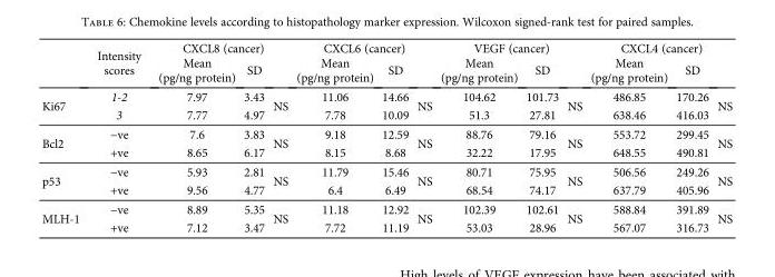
<table><thead><tr><td rowspan="2"></td><td rowspan="2">Intensity scores</td><td colspan="3">CXCL8 (cancer)</td><td colspan="3">CXCL6 (cancer)</td><td colspan="3">VEGF (cancer)</td><td colspan="3">CXCL4 (cancer)</td></tr><tr><td>Mean (pg/ng protein)</td><td>SD</td><td></td><td>Mean (pg/ng protein)</td><td>SD</td><td></td><td>Mean (pg/ng protein)</td><td>SD</td><td></td><td>Mean (pg/ng protein)</td><td>SD</td><td></td></tr></thead><tbody><tr><td rowspan="2">Ki67</td><td>1-2</td><td>7.97</td><td>3.43</td><td rowspan="2">NS</td><td>11.06</td><td>14.66</td><td rowspan="2">NS</td><td>104.62</td><td>101.73</td><td rowspan="2">NS</td><td>486.85</td><td>170.26</td><td rowspan="2">NS</td></tr><tr><td>3</td><td>7.77</td><td>4.97</td><td>7.78</td><td>10.09</td><td>51.3</td><td>27.81</td><td>638.46</td><td>416.03</td></tr><tr><td rowspan="2">Bcl2</td><td>−ve</td><td>7.6</td><td>3.83</td><td rowspan="2">NS</td><td>9.18</td><td>12.59</td><td rowspan="2">NS</td><td>88.76</td><td>79.16</td><td rowspan="2">NS</td><td>553.72</td><td>299.45</td><td rowspan="2">NS</td></tr><tr><td>+ve</td><td>8.65</td><td>6.17</td><td>8.15</td><td>8.68</td><td>32.22</td><td>17.95</td><td>648.55</td><td>490.81</td></tr><tr><td rowspan="2">p53</td><td>−ve</td><td>5.93</td><td>2.81</td><td rowspan="2">NS</td><td>11.79</td><td>15.46</td><td rowspan="2">NS</td><td>80.71</td><td>75.95</td><td rowspan="2">NS</td><td>506.56</td><td>249.26</td><td rowspan="2">NS</td></tr><tr><td>+ve</td><td>9.56</td><td>4.77</td><td>6.4</td><td>6.49</td><td>68.54</td><td>74.17</td><td>637.79</td><td>405.96</td></tr><tr><td rowspan="2">MLH-1</td><td>−ve</td><td>8.89</td><td>5.35</td><td rowspan="2">NS</td><td>11.18</td><td>12.92</td><td rowspan="2">NS</td><td>102.39</td><td>102.61</td><td rowspan="2">NS</td><td>588.84</td><td>391.89</td><td rowspan="2">NS</td></tr><tr><td>+ve</td><td>7.12</td><td>3.47</td><td>7.72</td><td>11.19</td><td>53.03</td><td>28.96</td><td>567.07</td><td>316.73</td></tr></tbody></table>